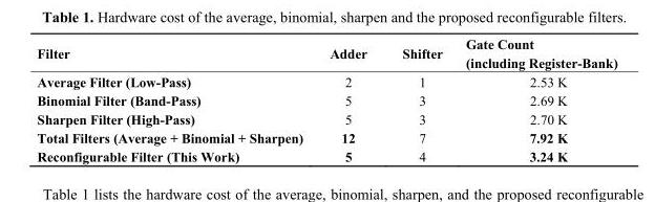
<table><thead><tr><td>Filter</td><td>Adder</td><td>Shifter</td><td>Gate Count (including Register-Bank)</td></tr></thead><tbody><tr><td>Average Filter (Low-Pass)</td><td>2</td><td>1</td><td>2.53 K</td></tr><tr><td>Binomial Filter (Band-Pass)</td><td>5</td><td>3</td><td>2.69 K</td></tr><tr><td>Sharpen Filter (High-Pass)</td><td>5</td><td>3</td><td>2.70 K</td></tr><tr><td>Total Filters (Average + Binomial + Sharpen)</td><td>12</td><td>7</td><td>7.92 K</td></tr><tr><td>Reconfigurable Filter (This Work)</td><td>5</td><td>4</td><td>3.24 K</td></tr></tbody></table>